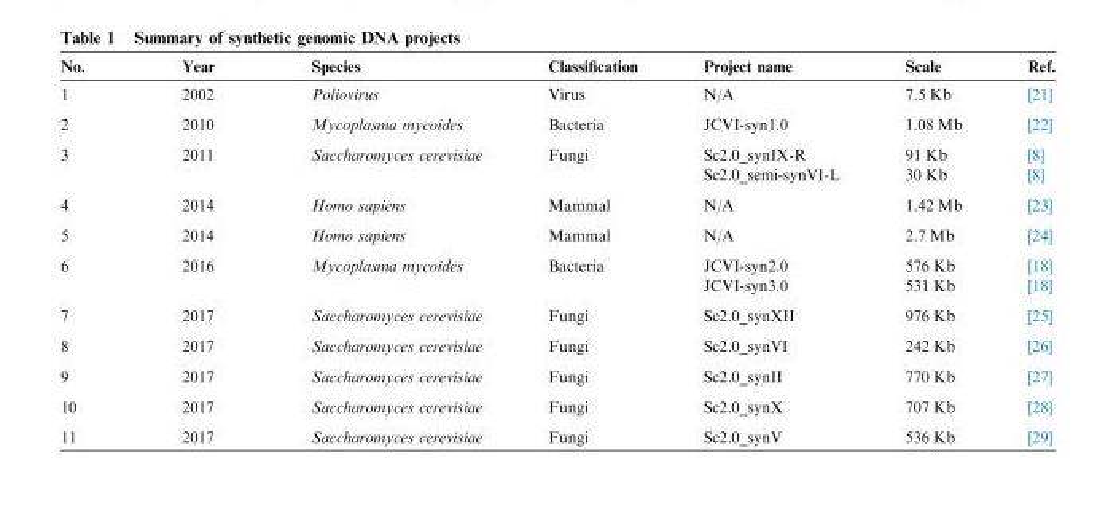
<table><thead><tr><td>No.</td><td>Year</td><td>Species</td><td>Classification</td><td>Project name</td><td>Scale</td><td>Ref.</td></tr></thead><tbody><tr><td>1</td><td>2002</td><td>Poliovirus</td><td>Virus</td><td>N/A</td><td>7.5 Kb</td><td>[21]</td></tr><tr><td>2</td><td>2010</td><td>Mycoplasma mycoides</td><td>Bacteria</td><td>JCVI-syn1.0</td><td>1.08 Mb</td><td>[22]</td></tr><tr><td rowspan="2">3</td><td>2011</td><td>Saccharomyces cerevisiae</td><td>Fungi</td><td>Sc2.0_synIX-R</td><td>91 Kb</td><td>[8]</td></tr><tr><td></td><td></td><td></td><td>Sc2.0_semi-synVI-L</td><td>30 Kb</td><td>[8]</td></tr><tr><td>4</td><td>2014</td><td>Homo sapiens</td><td>Mammal</td><td>N/A</td><td>1.42 Mb</td><td>[23]</td></tr><tr><td>5</td><td>2014</td><td>Homo sapiens</td><td>Mammal</td><td>N/A</td><td>2.7 Mb</td><td>[24]</td></tr><tr><td rowspan="2">6</td><td>2016</td><td>Mycoplasma mycoides</td><td>Bacteria</td><td>JCVI-syn2.0</td><td>576 Kb</td><td>[18]</td></tr><tr><td></td><td></td><td></td><td>JCVI-syn3.0</td><td>531 Kb</td><td>[18]</td></tr><tr><td>7</td><td>2017</td><td>Saccharomyces cerevisiae</td><td>Fungi</td><td>Sc2.0_synXII</td><td>976 Kb</td><td>[25]</td></tr><tr><td>8</td><td>2017</td><td>Saccharomyces cerevisiae</td><td>Fungi</td><td>Sc2.0_synVI</td><td>242 Kb</td><td>[26]</td></tr><tr><td>9</td><td>2017</td><td>Saccharomyces cerevisiae</td><td>Fungi</td><td>Sc2.0_synII</td><td>770 Kb</td><td>[27]</td></tr><tr><td>10</td><td>2017</td><td>Saccharomyces cerevisiae</td><td>Fungi</td><td>Sc2.0_synX</td><td>707 Kb</td><td>[28]</td></tr><tr><td>11</td><td>2017</td><td>Saccharomyces cerevisiae</td><td>Fungi</td><td>Sc2.0_synV</td><td>536 Kb</td><td>[29]</td></tr></tbody></table>